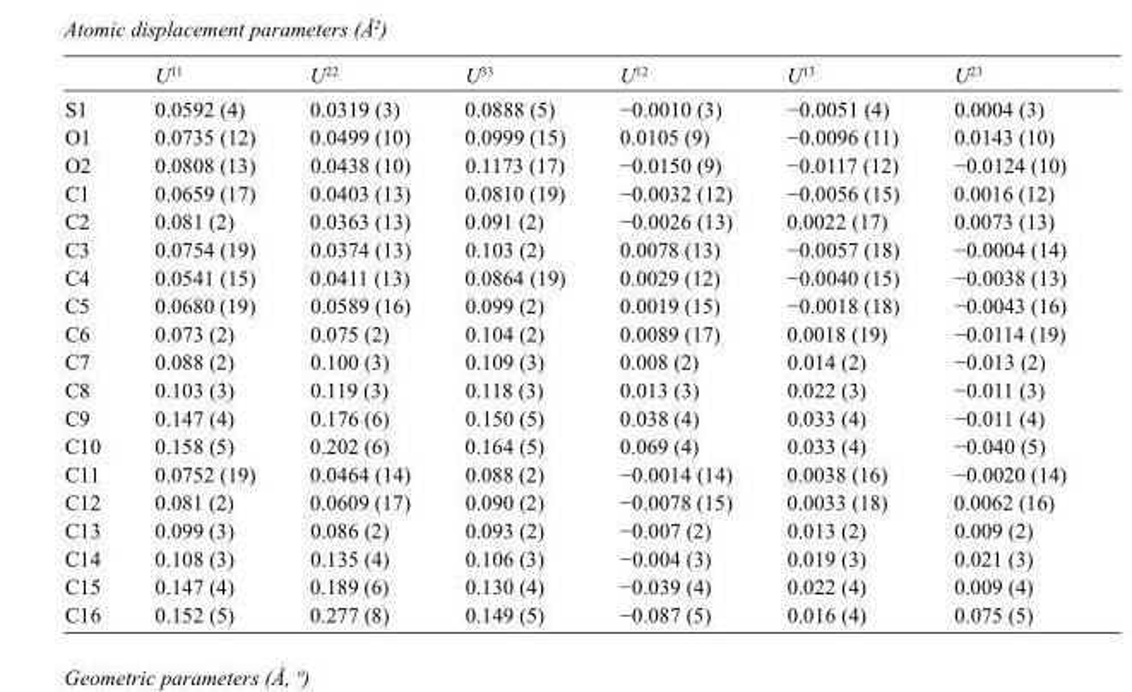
<table><thead><tr><td></td><td>U<sup>11</sup></td><td>U<sup>22</sup></td><td>U<sup>33</sup></td><td>U<sup>12</sup></td><td>U<sup>13</sup></td><td>U<sup>23</sup></td></tr></thead><tbody><tr><td>S1</td><td>0.0592 (4)</td><td>0.0319 (3)</td><td>0.0888 (5)</td><td>−0.0010 (3)</td><td>−0.0051 (4)</td><td>0.0004 (3)</td></tr><tr><td>O1</td><td>0.0735 (12)</td><td>0.0499 (10)</td><td>0.0999 (15)</td><td>0.0105 (9)</td><td>−0.0096 (11)</td><td>0.0143 (10)</td></tr><tr><td>O2</td><td>0.0808 (13)</td><td>0.0438 (10)</td><td>0.1173 (17)</td><td>−0.0150 (9)</td><td>−0.0117 (12)</td><td>−0.0124 (10)</td></tr><tr><td>C1</td><td>0.0659 (17)</td><td>0.0403 (13)</td><td>0.0810 (19)</td><td>−0.0032 (12)</td><td>−0.0056 (15)</td><td>0.0016 (12)</td></tr><tr><td>C2</td><td>0.081 (2)</td><td>0.0363 (13)</td><td>0.091 (2)</td><td>−0.0026 (13)</td><td>0.0022 (17)</td><td>0.0073 (13)</td></tr><tr><td>C3</td><td>0.0754 (19)</td><td>0.0374 (13)</td><td>0.103 (2)</td><td>0.0078 (13)</td><td>−0.0057 (18)</td><td>−0.0004 (14)</td></tr><tr><td>C4</td><td>0.0541 (15)</td><td>0.0411 (13)</td><td>0.0864 (19)</td><td>0.0029 (12)</td><td>−0.0040 (15)</td><td>−0.0038 (13)</td></tr><tr><td>C5</td><td>0.0680 (19)</td><td>0.0589 (16)</td><td>0.099 (2)</td><td>0.0019 (15)</td><td>−0.0018 (18)</td><td>−0.0043 (16)</td></tr><tr><td>C6</td><td>0.073 (2)</td><td>0.075 (2)</td><td>0.104 (2)</td><td>0.0089 (17)</td><td>0.0018 (19)</td><td>−0.0114 (19)</td></tr><tr><td>C7</td><td>0.088 (2)</td><td>0.100 (3)</td><td>0.109 (3)</td><td>0.008 (2)</td><td>0.014 (2)</td><td>−0.013 (2)</td></tr><tr><td>C8</td><td>0.103 (3)</td><td>0.119 (3)</td><td>0.118 (3)</td><td>0.013 (3)</td><td>0.022 (3)</td><td>−0.011 (3)</td></tr><tr><td>C9</td><td>0.147 (4)</td><td>0.176 (6)</td><td>0.150 (5)</td><td>0.038 (4)</td><td>0.033 (4)</td><td>−0.011 (4)</td></tr><tr><td>C10</td><td>0.158 (5)</td><td>0.202 (6)</td><td>0.164 (5)</td><td>0.069 (4)</td><td>0.033 (4)</td><td>−0.040 (5)</td></tr><tr><td>C11</td><td>0.0752 (19)</td><td>0.0464 (14)</td><td>0.088 (2)</td><td>−0.0014 (14)</td><td>0.0038 (16)</td><td>−0.0020 (14)</td></tr><tr><td>C12</td><td>0.081 (2)</td><td>0.0609 (17)</td><td>0.090 (2)</td><td>−0.0078 (15)</td><td>0.0033 (18)</td><td>0.0062 (16)</td></tr><tr><td>C13</td><td>0.099 (3)</td><td>0.086 (2)</td><td>0.093 (2)</td><td>−0.007 (2)</td><td>0.013 (2)</td><td>0.009 (2)</td></tr><tr><td>C14</td><td>0.108 (3)</td><td>0.135 (4)</td><td>0.106 (3)</td><td>−0.004 (3)</td><td>0.019 (3)</td><td>0.021 (3)</td></tr><tr><td>C15</td><td>0.147 (4)</td><td>0.189 (6)</td><td>0.130 (4)</td><td>−0.039 (4)</td><td>0.022 (4)</td><td>0.009 (4)</td></tr><tr><td>C16</td><td>0.152 (5)</td><td>0.277 (8)</td><td>0.149 (5)</td><td>−0.087 (5)</td><td>0.016 (4)</td><td>0.075 (5)</td></tr></tbody></table>